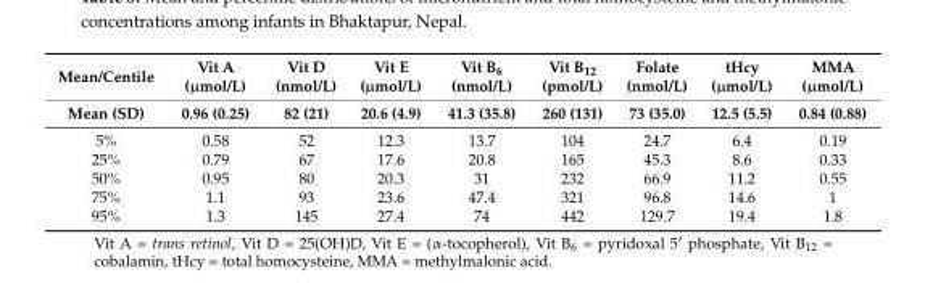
<table><thead><tr><td rowspan="2">Mean/Centile Mean (SD)</td><td rowspan="2">Vit A (µmol/L) 0.96 (0.25)</td><td rowspan="2">Vit D (nmol/L) 82 (21)</td><td rowspan="2">Vit E (µmol/L) 20.6 (4.9)</td><td rowspan="2">Vit B<sub>6</sub> (nmol/L) 41.3 (35.8)</td><td rowspan="2">Vit B<sub>12</sub> (pmol/L) 260 (131)</td><td rowspan="2">Folate (nmol/L) 73 (35.0)</td><td rowspan="2">tHcy (µmol/L) 12.5 (5.5)</td><td rowspan="2">MMA (µmol/L) 0.84 (0.88)</td></tr><tr></tr></thead><tbody><tr><td>5%</td><td>0.58</td><td>52</td><td>12.3</td><td>13.7</td><td>104</td><td>24.7</td><td>6.4</td><td>0.19</td></tr><tr><td>25%</td><td>0.79</td><td>67</td><td>17.6</td><td>20.8</td><td>165</td><td>45.3</td><td>8.6</td><td>0.33</td></tr><tr><td>50%</td><td>0.95</td><td>80</td><td>20.3</td><td>31</td><td>232</td><td>66.9</td><td>11.2</td><td>0.55</td></tr><tr><td>75%</td><td>1.1</td><td>93</td><td>23.6</td><td>47.4</td><td>321</td><td>96.8</td><td>14.6</td><td>1</td></tr><tr><td>95%</td><td>1.3</td><td>145</td><td>27.4</td><td>74</td><td>442</td><td>129.7</td><td>19.4</td><td>1.8</td></tr></tbody></table>